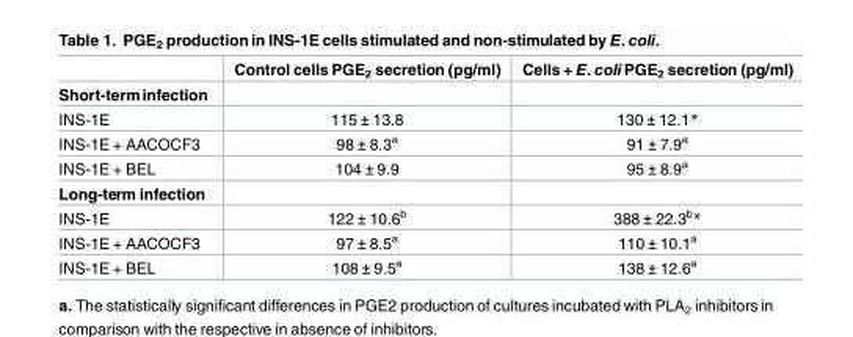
<table><thead><tr><td></td><td>Control cells PGE<sub>2</sub> secretion (pg/ml)</td><td>Cells + E. coli PGE<sub>2</sub> secretion (pg/ml)</td></tr></thead><tbody><tr><td colspan="3">Short-terminfection</td></tr><tr><td>INS-1E</td><td>115 ± 13.8</td><td>130 ± 12.1*</td></tr><tr><td>INS-1E + AACOCF3</td><td>98 ± 8.3<sup>a</sup></td><td>91 ± 7.9<sup>a</sup></td></tr><tr><td>INS-1E + BEL</td><td>104 ± 9.9</td><td>95 ± 8.9<sup>a</sup></td></tr><tr><td colspan="3">Long-term infection</td></tr><tr><td>INS-1E</td><td>122 ± 10.6<sup>b</sup></td><td>388 ± 22.3<sup>b</sup>*</td></tr><tr><td>INS-1E + AACOCF3</td><td>97 ± 8.5<sup>a</sup></td><td>110 ± 10.1<sup>a</sup></td></tr><tr><td>INS-1E + BEL</td><td>108 ± 9.5<sup>a</sup></td><td>138 ± 12.6<sup>a</sup></td></tr></tbody></table>